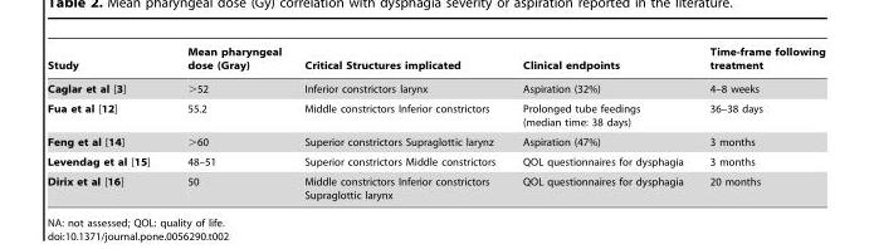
<table><thead><tr><td>Study</td><td>Mean pharyngeal dose (Gray)</td><td>Critical Structures implicated</td><td>Clinical endpoints</td><td>Time-frame following treatment</td></tr></thead><tbody><tr><td>Caglar et al [3]</td><td>&gt;52</td><td>Inferior constrictors larynx</td><td>Aspiration (32%)</td><td>4–8 weeks</td></tr><tr><td>Fua et al [12]</td><td>55.2</td><td>Middle constrictors Inferior constrictors</td><td>Prolonged tube feedings (median time: 38 days)</td><td>36–38 days</td></tr><tr><td>Feng et al [14]</td><td>&gt;60</td><td>Superior constrictors Supraglottic larynz</td><td>Aspiration (47%)</td><td>3 months</td></tr><tr><td>Levendag et al [15]</td><td>48–51</td><td>Superior constrictors Middle constrictors</td><td>QOL questionnaires for dysphagia</td><td>3 months</td></tr><tr><td>Dirix et al [16]</td><td>50</td><td>Middle constrictors Inferior constrictors Supraglottic larynx</td><td>QOL questionnaires for dysphagia</td><td>20 months</td></tr></tbody></table>